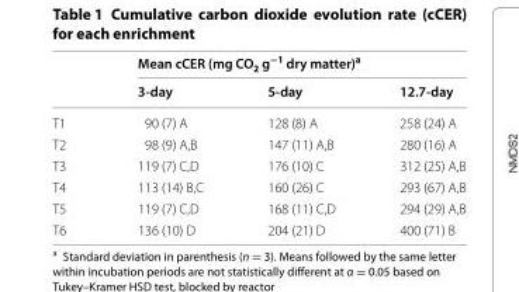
<table><thead><tr><td rowspan="2"></td><td colspan="3">Mean cCER (mg CO<sub>2</sub> g<sup>−1</sup> dry matter)<sup>a</sup></td></tr><tr><td>3‑day</td><td>5‑day</td><td>12.7‑day</td></tr></thead><tbody><tr><td>T1</td><td>90 (7) A</td><td>128 (8) A</td><td>258 (24) A</td></tr><tr><td>T2</td><td>98 (9) A,B</td><td>147 (11) A,B</td><td>280 (16) A</td></tr><tr><td>T3</td><td>119 (7) C,D</td><td>176 (10) C</td><td>312 (25) A,B</td></tr><tr><td>T4</td><td>113 (14) B,C</td><td>160 (26) C</td><td>293 (67) A,B</td></tr><tr><td>T5</td><td>119 (7) C,D</td><td>168 (11) C,D</td><td>294 (29) A,B</td></tr><tr><td>T6</td><td>136 (10) D</td><td>204 (21) D</td><td>400 (71) B</td></tr></tbody></table>